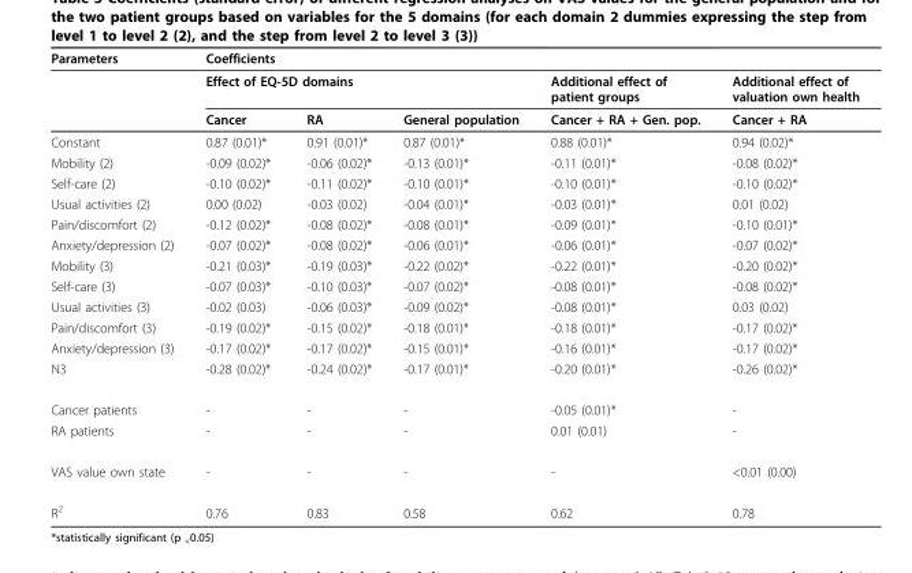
<table><thead><tr><td>Parameters</td><td>Coefficients</td><td></td><td></td><td></td><td></td></tr></thead><tbody><tr><td></td><td colspan="3">Effect of EQ-5D domains</td><td>Additional effect of patient groups</td><td>Additional effect of valuation own health</td></tr><tr><td></td><td>Cancer</td><td>RA</td><td>General population</td><td>Cancer + RA + Gen. pop.</td><td>Cancer + RA</td></tr><tr><td>Constant</td><td>0.87 (0.01)*</td><td>0.91 (0.01)*</td><td>0.87 (0.01)*</td><td>0.88 (0.01)*</td><td>0.94 (0.02)*</td></tr><tr><td>Mobility (2)</td><td>-0.09 (0.02)*</td><td>-0.06 (0.02)*</td><td>-0.13 (0.01)*</td><td>-0.11 (0.01)*</td><td>-0.08 (0.02)*</td></tr><tr><td>Self-care (2)</td><td>-0.10 (0.02)*</td><td>-0.11 (0.02)*</td><td>-0.10 (0.01)*</td><td>-0.10 (0.01)*</td><td>-0.10 (0.02)*</td></tr><tr><td>Usual activities (2)</td><td>0.00 (0.02)</td><td>-0.03 (0.02)</td><td>-0.04 (0.01)*</td><td>-0.03 (0.01)*</td><td>0.01 (0.02)</td></tr><tr><td>Pain/discomfort (2)</td><td>-0.12 (0.02)*</td><td>-0.08 (0.02)*</td><td>-0.08 (0.01)*</td><td>-0.09 (0.01)*</td><td>-0.10 (0.01)*</td></tr><tr><td>Anxiety/depression (2)</td><td>-0.07 (0.02)*</td><td>-0.08 (0.02)*</td><td>-0.06 (0.01)*</td><td>-0.06 (0.01)*</td><td>-0.07 (0.02)*</td></tr><tr><td>Mobility (3)</td><td>-0.21 (0.03)*</td><td>-0.19 (0.03)*</td><td>-0.22 (0.02)*</td><td>-0.22 (0.01)*</td><td>-0.20 (0.02)*</td></tr><tr><td>Self-care (3)</td><td>-0.07 (0.03)*</td><td>-0.10 (0.03)*</td><td>-0.07 (0.02)*</td><td>-0.08 (0.01)*</td><td>-0.08 (0.02)*</td></tr><tr><td>Usual activities (3)</td><td>-0.02 (0.03)</td><td>-0.06 (0.03)*</td><td>-0.09 (0.02)*</td><td>-0.08 (0.01)*</td><td>0.03 (0.02)</td></tr><tr><td>Pain/discomfort (3)</td><td>-0.19 (0.02)*</td><td>-0.15 (0.02)*</td><td>-0.18 (0.01)*</td><td>-0.18 (0.01)*</td><td>-0.17 (0.02)*</td></tr><tr><td>Anxiety/depression (3)</td><td>-0.17 (0.02)*</td><td>-0.17 (0.02)*</td><td>-0.15 (0.01)*</td><td>-0.16 (0.01)*</td><td>-0.17 (0.02)*</td></tr><tr><td>N3</td><td>-0.28 (0.02)*</td><td>-0.24 (0.02)*</td><td>-0.17 (0.01)*</td><td>-0.20 (0.01)*</td><td>-0.26 (0.02)*</td></tr><tr><td>Cancer patients</td><td>-</td><td>-</td><td>-</td><td>-0.05 (0.01)*</td><td>-</td></tr><tr><td>RA patients</td><td>-</td><td>-</td><td>-</td><td>0.01 (0.01)</td><td>-</td></tr><tr><td>VAS value own state</td><td>-</td><td>-</td><td>-</td><td>-</td><td>&lt;0.01 (0.00)</td></tr><tr><td>R<sup>2</sup></td><td>0.76</td><td>0.83</td><td>0.58</td><td>0.62</td><td>0.78</td></tr></tbody></table>